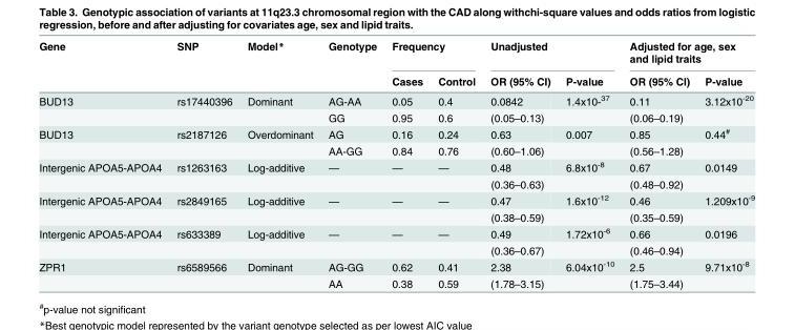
<table><thead><tr><td rowspan="2">Gene</td><td rowspan="2">SNP</td><td rowspan="2">Model*</td><td rowspan="2">Genotype</td><td colspan="2">Frequency</td><td colspan="2">Unadjusted</td><td colspan="2">Adjusted for age, sex and lipid traits</td></tr><tr><td>Cases</td><td>Control</td><td>OR (95% CI)</td><td>P-value</td><td>OR (95% CI)</td><td>P-value</td></tr></thead><tbody><tr><td rowspan="2">BUD13</td><td>rs17440396</td><td>Dominant</td><td>AG-AA</td><td>0.05</td><td>0.4</td><td>0.0842</td><td>1.4x10-<sup>37</sup></td><td>0.11</td><td>3.12x10<sup>-20</sup></td></tr><tr><td></td><td></td><td>GG</td><td>0.95</td><td>0.6</td><td>(0.05–0.13)</td><td></td><td>(0.06–0.19)</td><td></td></tr><tr><td rowspan="2">BUD13</td><td>rs2187126</td><td>Overdominant</td><td>AG</td><td>0.16</td><td>0.24</td><td>0.63</td><td>0.007</td><td>0.85</td><td>0.44<sup>#</sup></td></tr><tr><td></td><td></td><td>AA-GG</td><td>0.84</td><td>0.76</td><td>(0.60–1.06)</td><td></td><td>(0.56–1.28)</td><td></td></tr><tr><td rowspan="2">Intergenic APOA5-APOA4</td><td>rs1263163</td><td>Log-additive</td><td>—</td><td>—</td><td>—</td><td>0.48</td><td>6.8x10<sup>-8</sup></td><td>0.67</td><td>0.0149</td></tr><tr><td></td><td></td><td></td><td></td><td></td><td>(0.36–0.63)</td><td></td><td>(0.48–0.92)</td><td></td></tr><tr><td rowspan="2">Intergenic APOA5-APOA4</td><td>rs2849165</td><td>Log-additive</td><td>—</td><td>—</td><td>—</td><td>0.47</td><td>1.6x10<sup>-12</sup></td><td>0.46</td><td>1.209x10<sup>-9</sup></td></tr><tr><td></td><td></td><td></td><td></td><td></td><td>(0.38–0.59)</td><td></td><td>(0.35–0.59)</td><td></td></tr><tr><td rowspan="2">Intergenic APOA5-APOA4</td><td>rs633389</td><td>Log-additive</td><td>—</td><td>—</td><td>—</td><td>0.49</td><td>1.72x10<sup>-6</sup></td><td>0.66</td><td>0.0196</td></tr><tr><td></td><td></td><td></td><td></td><td></td><td>(0.36–0.67)</td><td></td><td>(0.46–0.94)</td><td></td></tr><tr><td rowspan="2">ZPR1</td><td>rs6589566</td><td>Dominant</td><td>AG-GG</td><td>0.62</td><td>0.41</td><td>2.38</td><td>6.04x10<sup>-10</sup></td><td>2.5</td><td>9.71x10<sup>-8</sup></td></tr><tr><td></td><td></td><td>AA</td><td>0.38</td><td>0.59</td><td>(1.78–3.15)</td><td></td><td>(1.75–3.44)</td><td></td></tr></tbody></table>